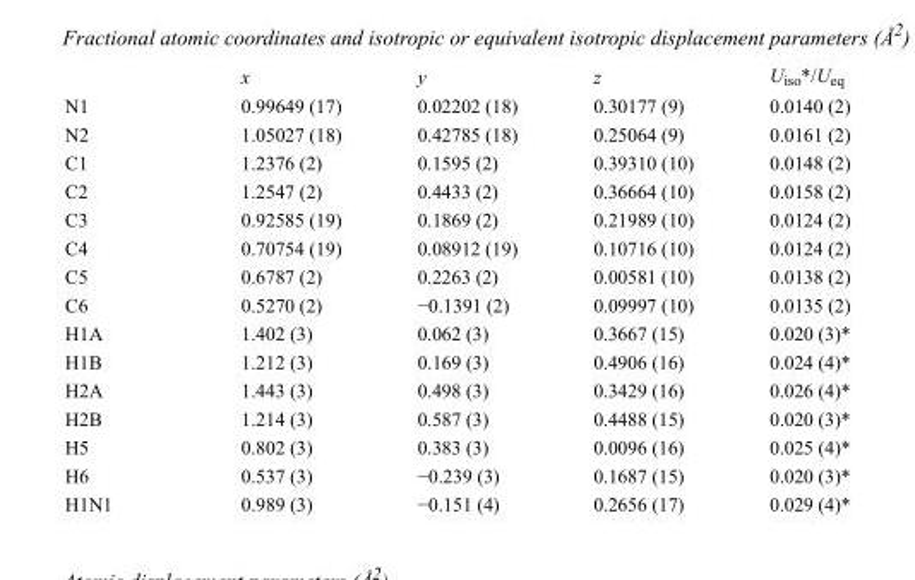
<table><thead><tr><td></td><td>x</td><td>y</td><td>z</td><td>U<sub>iso</sub>*/U<sub>eq</sub></td></tr></thead><tbody><tr><td>N1</td><td>0.99649 (17)</td><td>0.02202 (18)</td><td>0.30177 (9)</td><td>0.0140 (2)</td></tr><tr><td>N2</td><td>1.05027 (18)</td><td>0.42785 (18)</td><td>0.25064 (9)</td><td>0.0161 (2)</td></tr><tr><td>C1</td><td>1.2376 (2)</td><td>0.1595 (2)</td><td>0.39310 (10)</td><td>0.0148 (2)</td></tr><tr><td>C2</td><td>1.2547 (2)</td><td>0.4433 (2)</td><td>0.36664 (10)</td><td>0.0158 (2)</td></tr><tr><td>C3</td><td>0.92585 (19)</td><td>0.1869 (2)</td><td>0.21989 (10)</td><td>0.0124 (2)</td></tr><tr><td>C4</td><td>0.70754 (19)</td><td>0.08912 (19)</td><td>0.10716 (10)</td><td>0.0124 (2)</td></tr><tr><td>C5</td><td>0.6787 (2)</td><td>0.2263 (2)</td><td>0.00581 (10)</td><td>0.0138 (2)</td></tr><tr><td>C6</td><td>0.5270 (2)</td><td>−0.1391 (2)</td><td>0.09997 (10)</td><td>0.0135 (2)</td></tr><tr><td>H1A</td><td>1.402 (3)</td><td>0.062 (3)</td><td>0.3667 (15)</td><td>0.020 (3)*</td></tr><tr><td>H1B</td><td>1.212 (3)</td><td>0.169 (3)</td><td>0.4906 (16)</td><td>0.024 (4)*</td></tr><tr><td>H2A</td><td>1.443 (3)</td><td>0.498 (3)</td><td>0.3429 (16)</td><td>0.026 (4)*</td></tr><tr><td>H2B</td><td>1.214 (3)</td><td>0.587 (3)</td><td>0.4488 (15)</td><td>0.020 (3)*</td></tr><tr><td>H5</td><td>0.802 (3)</td><td>0.383 (3)</td><td>0.0096 (16)</td><td>0.025 (4)*</td></tr><tr><td>H6</td><td>0.537 (3)</td><td>−0.239 (3)</td><td>0.1687 (15)</td><td>0.020 (3)*</td></tr><tr><td>H1N1</td><td>0.989 (3)</td><td>−0.151 (4)</td><td>0.2656 (17)</td><td>0.029 (4)*</td></tr></tbody></table>